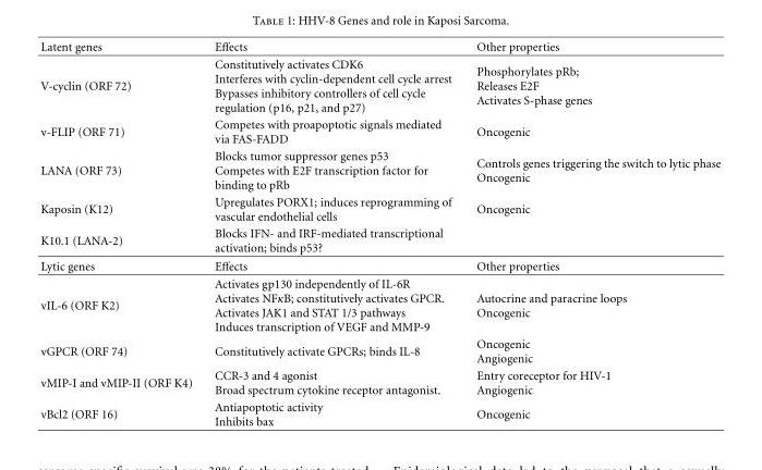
<table><thead><tr><td>Latent genes</td><td>Effects</td><td>Other properties</td></tr></thead><tbody><tr><td>V-cyclin (ORF 72)</td><td>Constitutively activates CDK6 Interferes with cyclin-dependent cell cycle arrest Bypasses inhibitory controllers of cell cycle regulation (p16, p21, and p27)</td><td>Phosphorylates pRb; Releases E2F Activates S-phase genes</td></tr><tr><td>v-FLIP (ORF 71)</td><td>Competes with proapoptotic signals mediated via FAS-FADD</td><td>Oncogenic</td></tr><tr><td>LANA (ORF 73)</td><td>Blocks tumor suppressor genes p53 Competes with E2F transcription factor for binding to pRb</td><td>Controls genes triggering the switch to lytic phase Oncogenic</td></tr><tr><td>Kaposin (K12)</td><td>Upregulates PORX1; induces reprogramming of vascular endothelial cells</td><td>Oncogenic</td></tr><tr><td>K10.1 (LANA-2)</td><td>Blocks IFN- and IRF-mediated transcriptional activation; binds p53?</td><td></td></tr><tr><td>Lytic genes</td><td>Effects</td><td>Other properties</td></tr><tr><td>vIL-6 (ORF K2)</td><td>Activates gp130 independently of IL-6R Activates NFκB; constitutively activates GPCR. Activates JAK1 and STAT 1/3 pathways Induces transcription of VEGF and MMP-9</td><td>Autocrine and paracrine loops Oncogenic</td></tr><tr><td>vGPCR (ORF 74)</td><td>Constitutively activate GPCRs; binds IL-8</td><td>Oncogenic Angiogenic</td></tr><tr><td>vMIP-I and vMIP-II (ORF K4)</td><td>CCR-3 and 4 agonist Broad spectrum cytokine receptor antagonist.</td><td>Entry coreceptor for HIV-1 Angiogenic</td></tr><tr><td>vBcl2 (ORF 16)</td><td>Antiapoptotic activity Inhibits bax</td><td>Oncogenic</td></tr></tbody></table>